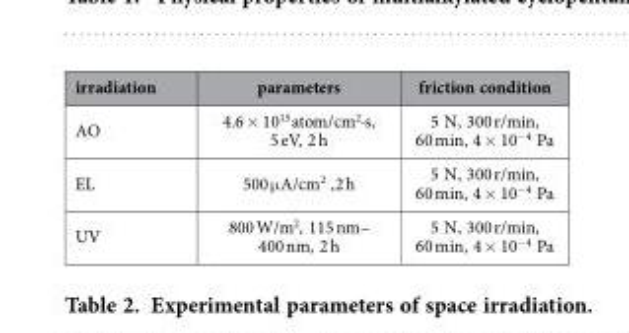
<table><thead><tr><td>irradiation</td><td>parameters</td><td>friction condition</td></tr></thead><tbody><tr><td>AO</td><td>4.6 × 10<sup>15</sup> atom/cm<sup>2</sup>·s, 5 eV, 2 h</td><td>5 N, 300 r/min, 60 min, 4 × 10<sup>−4</sup> Pa</td></tr><tr><td>EL</td><td>500 μ A/cm<sup>2</sup> ,2 h</td><td>5 N, 300 r/min, 60 min, 4 × 10<sup>−4</sup> Pa</td></tr><tr><td>UV</td><td>800 W/m<sup>2</sup>, 115 nm– 400 nm, 2 h</td><td>5 N, 300 r/min, 60 min, 4 × 10<sup>−4</sup> Pa</td></tr></tbody></table>